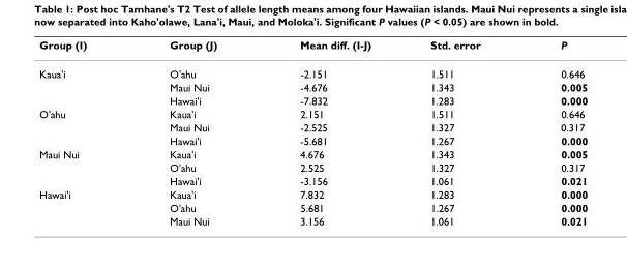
<table><thead><tr><td>Group (I)</td><td>Group (J)</td><td>Mean diff. (I-J)</td><td>Std. error</td><td>P</td></tr></thead><tbody><tr><td rowspan="3">Kaua&#x27;i</td><td>O&#x27;ahu</td><td>-2.151</td><td>1.511</td><td>0.646</td></tr><tr><td>Maui Nui</td><td>-4.676</td><td>1.343</td><td>0.005</td></tr><tr><td>Hawai&#x27;i</td><td>-7.832</td><td>1.283</td><td>0.000</td></tr><tr><td rowspan="3">O&#x27;ahu</td><td>Kaua&#x27;i</td><td>2.151</td><td>1.511</td><td>0.646</td></tr><tr><td>Maui Nui</td><td>-2.525</td><td>1.327</td><td>0.317</td></tr><tr><td>Hawai&#x27;i</td><td>-5.681</td><td>1.267</td><td>0.000</td></tr><tr><td rowspan="3">Maui Nui</td><td>Kaua&#x27;i</td><td>4.676</td><td>1.343</td><td>0.005</td></tr><tr><td>O&#x27;ahu</td><td>2.525</td><td>1.327</td><td>0.317</td></tr><tr><td>Hawai&#x27;i</td><td>-3.156</td><td>1.061</td><td>0.021</td></tr><tr><td rowspan="3">Hawai&#x27;i</td><td>Kaua&#x27;i</td><td>7.832</td><td>1.283</td><td>0.000</td></tr><tr><td>O&#x27;ahu</td><td>5.681</td><td>1.267</td><td>0.000</td></tr><tr><td>Maui Nui</td><td>3.156</td><td>1.061</td><td>0.021</td></tr></tbody></table>